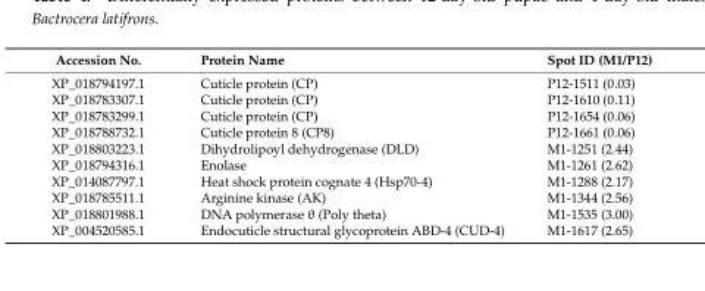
<table><thead><tr><td>Accession No.</td><td>Protein Name</td><td>Spot ID (M1/P12)</td></tr></thead><tbody><tr><td>XP_018794197.1</td><td>Cuticle protein (CP)</td><td>P12-1511 (0.03)</td></tr><tr><td>XP_018783307.1</td><td>Cuticle protein (CP)</td><td>P12-1610 (0.11)</td></tr><tr><td>XP_018783299.1</td><td>Cuticle protein (CP)</td><td>P12-1654 (0.06)</td></tr><tr><td>XP_018788732.1</td><td>Cuticle protein 8 (CP8)</td><td>P12-1661 (0.06)</td></tr><tr><td>XP_018803223.1</td><td>Dihydrolipoyl dehydrogenase (DLD)</td><td>M1-1251 (2.44)</td></tr><tr><td>XP_018794316.1</td><td>Enolase</td><td>M1-1261 (2.62)</td></tr><tr><td>XP_014087797.1</td><td>Heat shock protein cognate 4 (Hsp70-4)</td><td>M1-1288 (2.17)</td></tr><tr><td>XP_018785511.1</td><td>Arginine kinase (AK)</td><td>M1-1344 (2.56)</td></tr><tr><td>XP_018801988.1</td><td>DNA polymerase θ (Poly theta)</td><td>M1-1535 (3.00)</td></tr><tr><td>XP_004520585.1</td><td>Endocuticle structural glycoprotein ABD-4 (CUD-4)</td><td>M1-1617 (2.65)</td></tr></tbody></table>